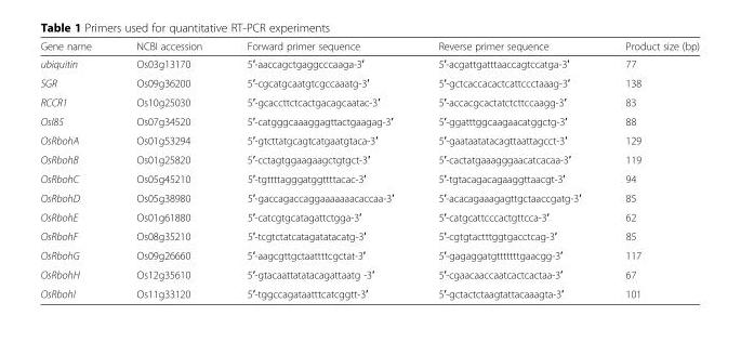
<table><thead><tr><td>Gene name</td><td>NCBI accession</td><td>Forward primer sequence</td><td>Reverse primer sequence</td><td>Product size (bp)</td></tr></thead><tbody><tr><td>ubiquitin</td><td>Os03g13170</td><td>5′-aaccagctgaggcccaaga-3′</td><td>5′-acgattgatttaaccagtccatga-3′</td><td>77</td></tr><tr><td>SGR</td><td>Os09g36200</td><td>5′-cgcatgcaatgtcgccaaatg-3′</td><td>5′-gctcaccacactcattccctaaag-3′</td><td>138</td></tr><tr><td>RCCR1</td><td>Os10g25030</td><td>5′-gcaccttctcactgacagcaatac-3′</td><td>5′-accacgcactatctcttccaagg-3′</td><td>83</td></tr><tr><td>Osl85</td><td>Os07g34520</td><td>5′-catgggcaaaggagttactgaagag-3′</td><td>5′-ggatttggcaagaacatggctg-3′</td><td>88</td></tr><tr><td>OsRbohA</td><td>Os01g53294</td><td>5′-gtcttatgcagtcatgaatgtaca-3′</td><td>5′-gaataatatacagttaattagcct-3′</td><td>129</td></tr><tr><td>OsRbohB</td><td>Os01g25820</td><td>5′-cctagtggaagaagctgtgct-3′</td><td>5′-cactatgaaagggaacatcacaa-3′</td><td>119</td></tr><tr><td>OsRbohC</td><td>Os05g45210</td><td>5′-tgttttagggatggttttacac-3′</td><td>5′-tgtacagacagaaggttaacgt-3′</td><td>94</td></tr><tr><td>OsRbohD</td><td>Os05g38980</td><td>5′-gaccagaccaggaaaaaaacaccaa-3′</td><td>5′-acacagaaagagttgctaaccgatg-3′</td><td>85</td></tr><tr><td>OsRbohE</td><td>Os01g61880</td><td>5′-catcgtgcatagattctgga-3′</td><td>5′-catgcattcccactgttcca-3′</td><td>62</td></tr><tr><td>OsRbohF</td><td>Os08g35210</td><td>5′-tcgtctatcatagatatacatg-3′</td><td>5′-cgtgtactttggtgacctcag-3′</td><td>85</td></tr><tr><td>OsRbohG</td><td>Os09g26660</td><td>5′-aagcgttgctaattttcgctat-3′</td><td>5′-gagaggatgtttttttgaacgg-3′</td><td>117</td></tr><tr><td>OsRbohH</td><td>Os12g35610</td><td>5′-gtacaattatatacagattaatg -3′</td><td>5′-cgaacaaccaatcactcactaa-3′</td><td>67</td></tr><tr><td>OsRbohI</td><td>Os11g33120</td><td>5′-tggccagataatttcatcggtt-3′</td><td>5′-gctactctaagtattacaaagta-3′</td><td>101</td></tr></tbody></table>